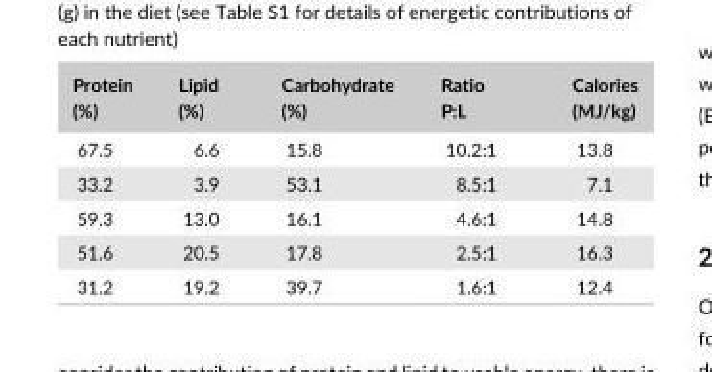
<table><thead><tr><td>Protein (%)</td><td>Lipid (%)</td><td>Carbohydrate (%)</td><td>Ratio P:L</td><td>Calories (MJ/kg)</td></tr></thead><tbody><tr><td>67.5</td><td>6.6</td><td>15.8</td><td>10.2:1</td><td>13.8</td></tr><tr><td>33.2</td><td>3.9</td><td>53.1</td><td>8.5:1</td><td>7.1</td></tr><tr><td>59.3</td><td>13.0</td><td>16.1</td><td>4.6:1</td><td>14.8</td></tr><tr><td>51.6</td><td>20.5</td><td>17.8</td><td>2.5:1</td><td>16.3</td></tr><tr><td>31.2</td><td>19.2</td><td>39.7</td><td>1.6:1</td><td>12.4</td></tr></tbody></table>